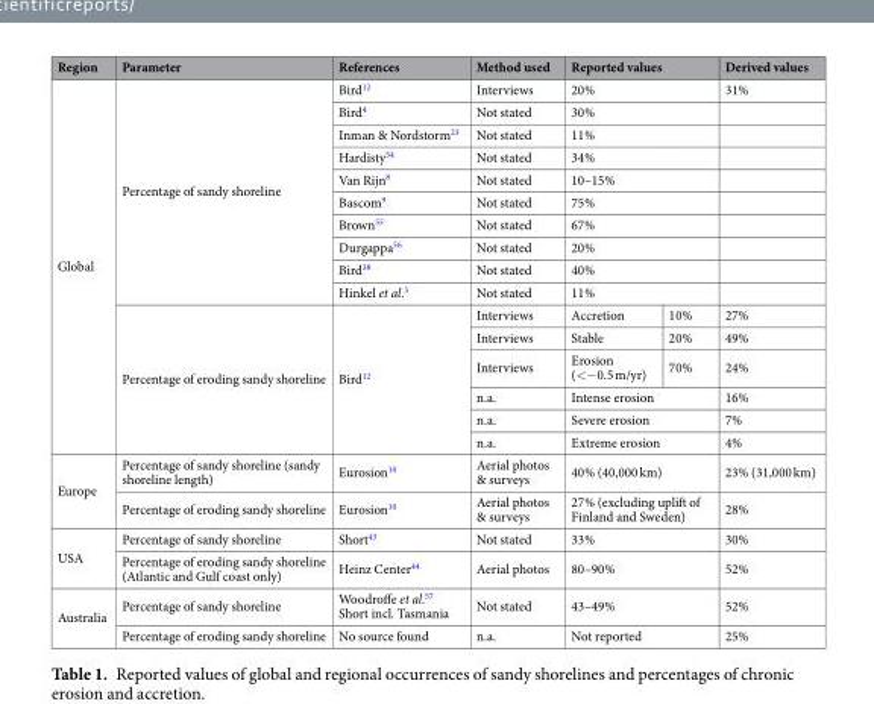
<table><thead><tr><td>Region</td><td>Parameter</td><td>References</td><td>Method used</td><td colspan="2">Reported values</td><td>Derived values</td></tr></thead><tbody><tr><td rowspan="16">Global</td><td rowspan="10">Percentage of sandy shoreline</td><td>Bird<sup>12</sup></td><td>Interviews</td><td colspan="2">20%</td><td>31%</td></tr><tr><td>Bird<sup>4</sup></td><td>Not stated</td><td colspan="2">30%</td><td></td></tr><tr><td>Inman &amp; Nordstorm<sup>23</sup></td><td>Not stated</td><td colspan="2">11%</td><td></td></tr><tr><td>Hardisty<sup>54</sup></td><td>Not stated</td><td colspan="2">34%</td><td></td></tr><tr><td>Van Rijn<sup>8</sup></td><td>Not stated</td><td colspan="2">10–15%</td><td></td></tr><tr><td>Bascom<sup>9</sup></td><td>Not stated</td><td colspan="2">75%</td><td></td></tr><tr><td>Brown<sup>55</sup></td><td>Not stated</td><td colspan="2">67%</td><td></td></tr><tr><td>Durgappa<sup>56</sup></td><td>Not stated</td><td colspan="2">20%</td><td></td></tr><tr><td>Bird<sup>38</sup></td><td>Not stated</td><td colspan="2">40%</td><td></td></tr><tr><td>Hinkel et al.<sup>3</sup></td><td>Not stated</td><td colspan="2">11%</td><td></td></tr><tr><td rowspan="6">Percentage of eroding sandy shoreline</td><td rowspan="6">Bird<sup>12</sup></td><td>Interviews</td><td>Accretion</td><td>10%</td><td>27%</td></tr><tr><td>Interviews</td><td>Stable</td><td>20%</td><td>49%</td></tr><tr><td>Interviews</td><td>Erosion (&lt;−0.5 m/yr)</td><td>70%</td><td>24%</td></tr><tr><td>n.a.</td><td colspan="2">Intense erosion</td><td>16%</td></tr><tr><td>n.a.</td><td colspan="2">Severe erosion</td><td>7%</td></tr><tr><td>n.a.</td><td colspan="2">Extreme erosion</td><td>4%</td></tr><tr><td rowspan="2">Europe</td><td>Percentage of sandy shoreline (sandy shoreline length)</td><td>Eurosion<sup>10</sup></td><td>Aerial photos &amp; surveys</td><td colspan="2">40% (40,000 km)</td><td>23% (31,000 km)</td></tr><tr><td>Percentage of eroding sandy shoreline</td><td>Eurosion<sup>10</sup></td><td>Aerial photos &amp; surveys</td><td colspan="2">27% (excluding uplift of Finland and Sweden)</td><td>28%</td></tr><tr><td rowspan="2">USA</td><td>Percentage of sandy shoreline</td><td>Short<sup>43</sup></td><td>Not stated</td><td colspan="2">33%</td><td>30%</td></tr><tr><td>Percentage of eroding sandy shoreline (Atlantic and Gulf coast only)</td><td>Heinz Center<sup>44</sup></td><td>Aerial photos</td><td colspan="2">80–90%</td><td>52%</td></tr><tr><td rowspan="2">Australia</td><td>Percentage of sandy shoreline</td><td>Woodroffe et al.<sup>57</sup> Short incl. Tasmania</td><td>Not stated</td><td colspan="2">43–49%</td><td>52%</td></tr><tr><td>Percentage of eroding sandy shoreline</td><td>No source found</td><td>n.a.</td><td colspan="2">Not reported</td><td>25%</td></tr></tbody></table>